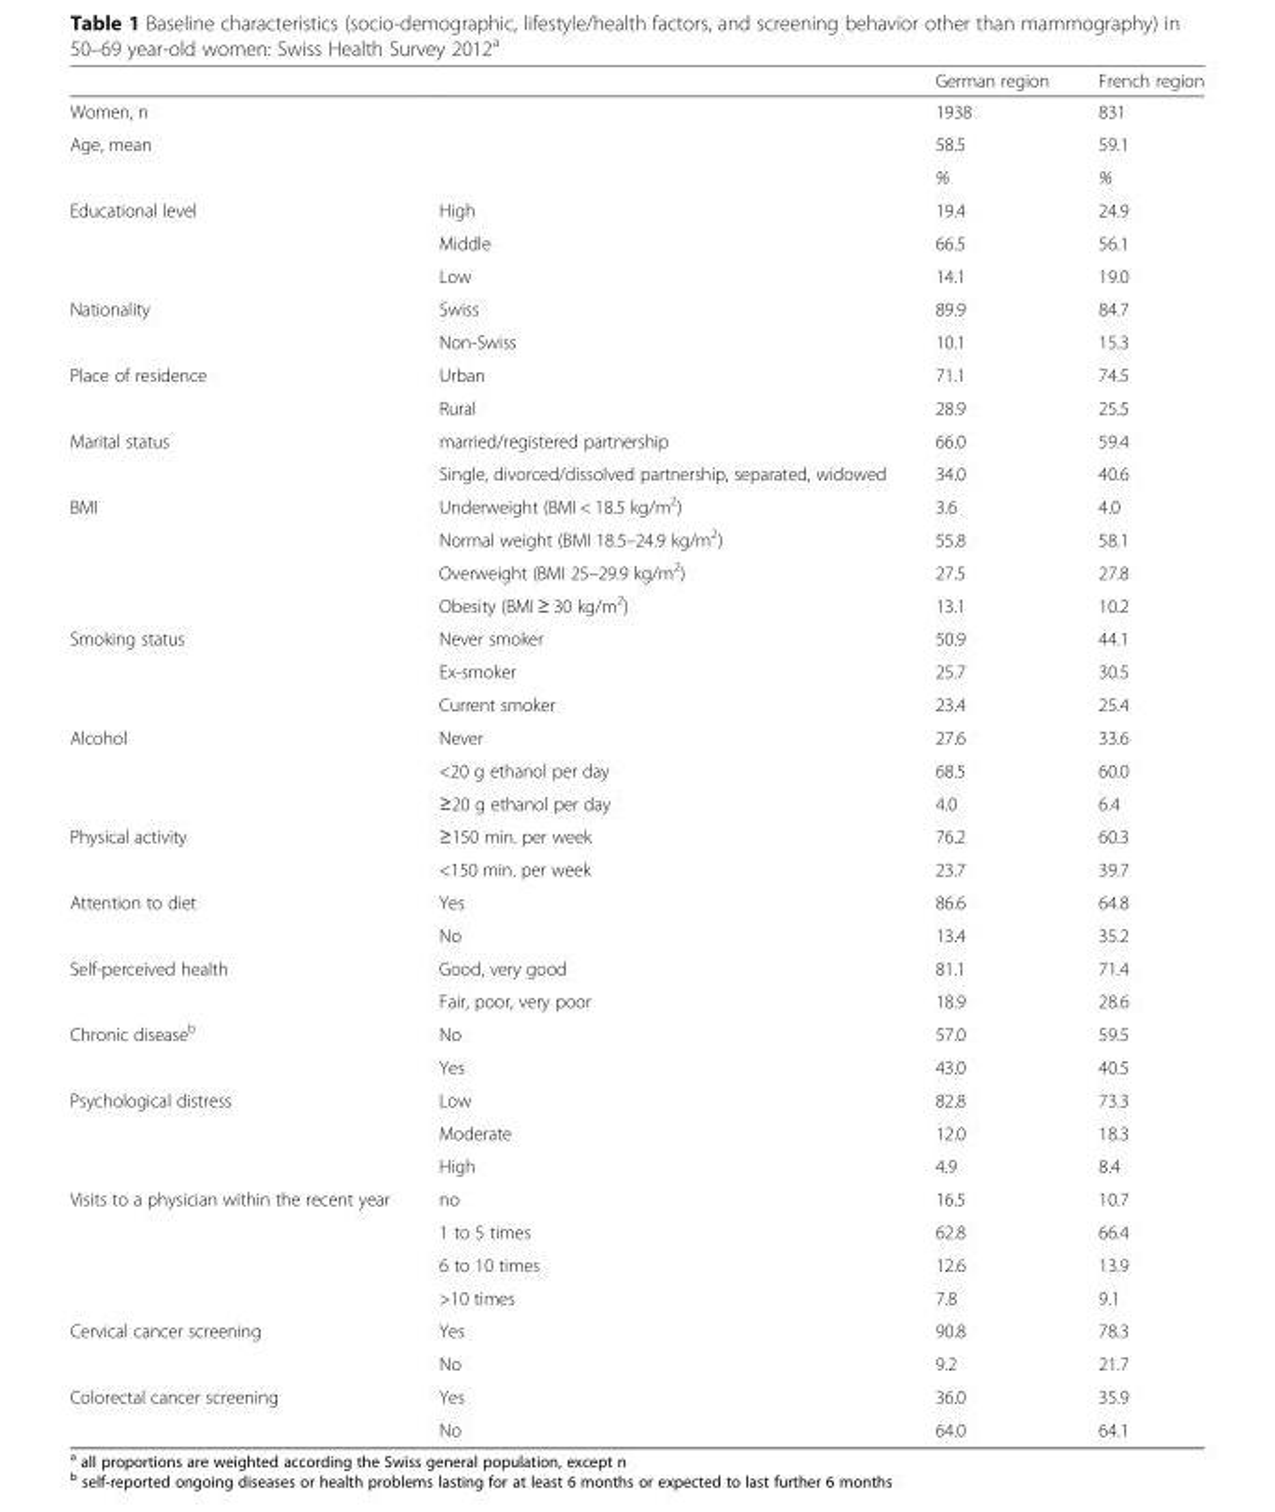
<table><thead><tr><td></td><td></td><td>German region</td><td>French region</td></tr></thead><tbody><tr><td>Women, n</td><td></td><td>1938</td><td>831</td></tr><tr><td rowspan="2">Age, mean</td><td></td><td>58.5</td><td>59.1</td></tr><tr><td></td><td>%</td><td>%</td></tr><tr><td rowspan="3">Educational level</td><td>High</td><td>19.4</td><td>24.9</td></tr><tr><td>Middle</td><td>66.5</td><td>56.1</td></tr><tr><td>Low</td><td>14.1</td><td>19.0</td></tr><tr><td rowspan="2">Nationality</td><td>Swiss</td><td>89.9</td><td>84.7</td></tr><tr><td>Non-Swiss</td><td>10.1</td><td>15.3</td></tr><tr><td rowspan="2">Place of residence</td><td>Urban</td><td>71.1</td><td>74.5</td></tr><tr><td>Rural</td><td>28.9</td><td>25.5</td></tr><tr><td rowspan="2">Marital status</td><td>married/registered partnership</td><td>66.0</td><td>59.4</td></tr><tr><td>Single, divorced/dissolved partnership, separated, widowed</td><td>34.0</td><td>40.6</td></tr><tr><td rowspan="4">BMI</td><td>Underweight (BMI &lt; 18.5 kg/m<sup>2</sup>)</td><td>3.6</td><td>4.0</td></tr><tr><td>Normal weight (BMI 18.5–24.9 kg/m<sup>2</sup>)</td><td>55.8</td><td>58.1</td></tr><tr><td>Overweight (BMI 25–29.9 kg/m<sup>2</sup>)</td><td>27.5</td><td>27.8</td></tr><tr><td>Obesity (BMI ≥ 30 kg/m<sup>2</sup>)</td><td>13.1</td><td>10.2</td></tr><tr><td rowspan="3">Smoking status</td><td>Never smoker</td><td>50.9</td><td>44.1</td></tr><tr><td>Ex-smoker</td><td>25.7</td><td>30.5</td></tr><tr><td>Current smoker</td><td>23.4</td><td>25.4</td></tr><tr><td rowspan="3">Alcohol</td><td>Never</td><td>27.6</td><td>33.6</td></tr><tr><td>&lt;20 g ethanol per day</td><td>68.5</td><td>60.0</td></tr><tr><td>≥20 g ethanol per day</td><td>4.0</td><td>6.4</td></tr><tr><td rowspan="2">Physical activity</td><td>≥150 min. per week</td><td>76.2</td><td>60.3</td></tr><tr><td>&lt;150 min. per week</td><td>23.7</td><td>39.7</td></tr><tr><td rowspan="2">Attention to diet</td><td>Yes</td><td>86.6</td><td>64.8</td></tr><tr><td>No</td><td>13.4</td><td>35.2</td></tr><tr><td rowspan="2">Self-perceived health</td><td>Good, very good</td><td>81.1</td><td>71.4</td></tr><tr><td>Fair, poor, very poor</td><td>18.9</td><td>28.6</td></tr><tr><td rowspan="2">Chronic disease<sup>b</sup></td><td>No</td><td>57.0</td><td>59.5</td></tr><tr><td>Yes</td><td>43.0</td><td>40.5</td></tr><tr><td rowspan="3">Psychological distress</td><td>Low</td><td>82.8</td><td>73.3</td></tr><tr><td>Moderate</td><td>12.0</td><td>18.3</td></tr><tr><td>High</td><td>4.9</td><td>8.4</td></tr><tr><td rowspan="4">Visits to a physician within the recent year</td><td>no</td><td>16.5</td><td>10.7</td></tr><tr><td>1 to 5 times</td><td>62.8</td><td>66.4</td></tr><tr><td>6 to 10 times</td><td>12.6</td><td>13.9</td></tr><tr><td>&gt;10 times</td><td>7.8</td><td>9.1</td></tr><tr><td rowspan="2">Cervical cancer screening</td><td>Yes</td><td>90.8</td><td>78.3</td></tr><tr><td>No</td><td>9.2</td><td>21.7</td></tr><tr><td rowspan="2">Colorectal cancer screening</td><td>Yes</td><td>36.0</td><td>35.9</td></tr><tr><td>No</td><td>64.0</td><td>64.1</td></tr></tbody></table>